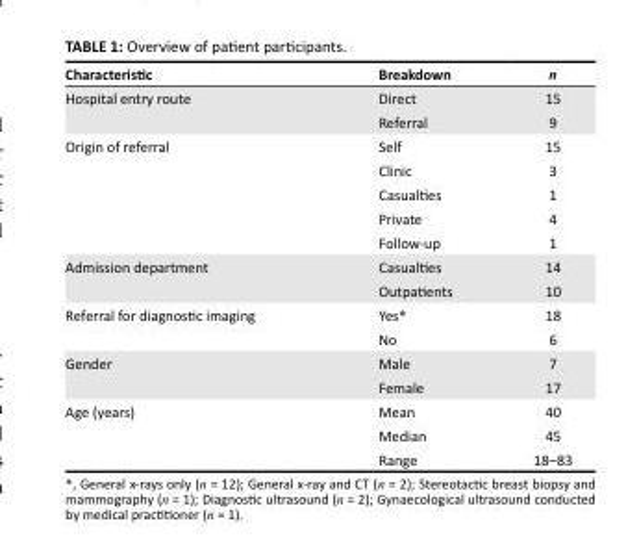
<table><thead><tr><td>Characteristic</td><td>Breakdown</td><td>n</td></tr></thead><tbody><tr><td rowspan="2">Hospital entry route</td><td>Direct</td><td>15</td></tr><tr><td>Referral</td><td>9</td></tr><tr><td rowspan="5">Origin of referral</td><td>Self</td><td>15</td></tr><tr><td>Clinic</td><td>3</td></tr><tr><td>Casualties</td><td>1</td></tr><tr><td>Private</td><td>4</td></tr><tr><td>Follow-up</td><td>1</td></tr><tr><td rowspan="2">Admission department</td><td>Casualties</td><td>14</td></tr><tr><td>Outpatients</td><td>10</td></tr><tr><td rowspan="2">Referral for diagnostic imaging</td><td>Yes*</td><td>18</td></tr><tr><td>No</td><td>6</td></tr><tr><td rowspan="2">Gender</td><td>Male</td><td>7</td></tr><tr><td>Female</td><td>17</td></tr><tr><td rowspan="3">Age (years)</td><td>Mean</td><td>40</td></tr><tr><td>Median</td><td>45</td></tr><tr><td>Range</td><td>18–83</td></tr></tbody></table>